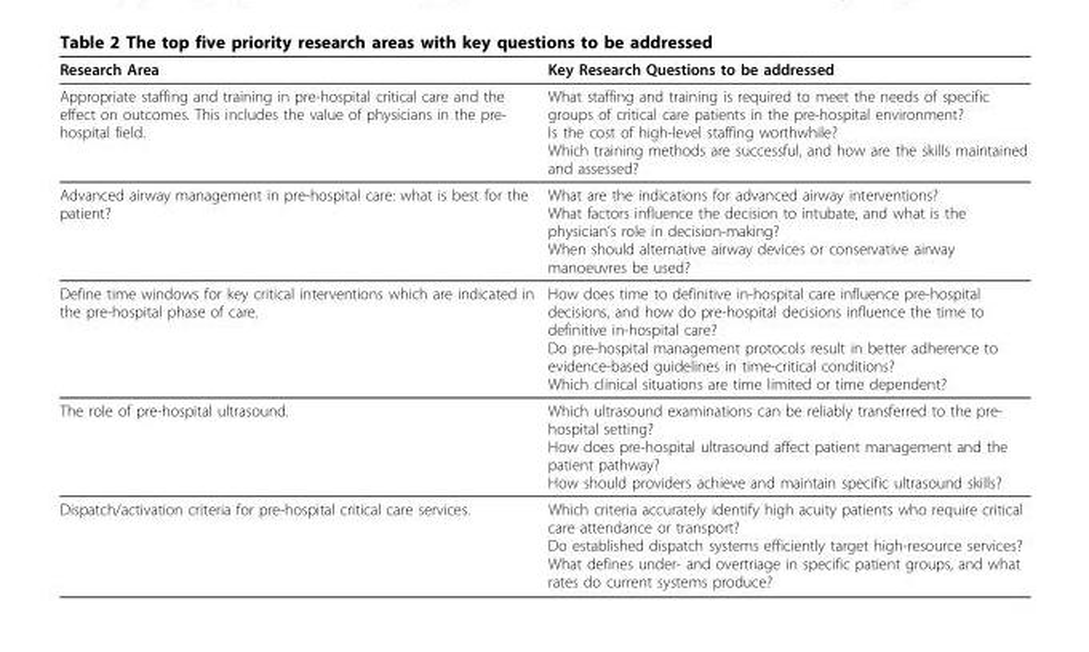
<table><thead><tr><td>Research Area</td><td>Key Research Questions to be addressed</td></tr></thead><tbody><tr><td>Appropriate staffing and training in pre-hospital critical care and the effect on outcomes. This includes the value of physicians in the pre- hospital field.</td><td>What staffing and training is required to meet the needs of specific groups of critical care patients in the pre-hospital environment? Is the cost of high-level staffing worthwhile? Which training methods are successful, and how are the skills maintained and assessed?</td></tr><tr><td>Advanced airway management in pre-hospital care: what is best for the patient?</td><td>What are the indications for advanced airway interventions? What factors influence the decision to intubate, and what is the physician’s role in decision-making? When should alternative airway devices or conservative airway manoeuvres be used?</td></tr><tr><td>Define time windows for key critical interventions which are indicated in the pre-hospital phase of care.</td><td>How does time to definitive in-hospital care influence pre-hospital decisions, and how do pre-hospital decisions influence the time to definitive in-hospital care? Do pre-hospital management protocols result in better adherence to evidence-based guidelines in time-critical conditions? Which clinical situations are time limited or time dependent?</td></tr><tr><td>The role of pre-hospital ultrasound.</td><td>Which ultrasound examinations can be reliably transferred to the pre- hospital setting? How does pre-hospital ultrasound affect patient management and the patient pathway? How should providers achieve and maintain specific ultrasound skills?</td></tr><tr><td>Dispatch/activation criteria for pre-hospital critical care services.</td><td>Which criteria accurately identify high acuity patients who require critical care attendance or transport? Do established dispatch systems efficiently target high-resource services? What defines under- and overtriage in specific patient groups, and what rates do current systems produce?</td></tr></tbody></table>